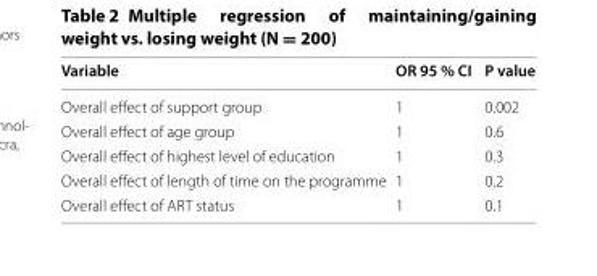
<table><thead><tr><td>Variable</td><td>OR 95 % CI</td><td>P value</td></tr></thead><tbody><tr><td>Overall effect of support group</td><td>1</td><td>0.002</td></tr><tr><td>Overall effect of age group</td><td>1</td><td>0.6</td></tr><tr><td>Overall effect of highest level of education</td><td>1</td><td>0.3</td></tr><tr><td>Overall effect of length of time on the programme</td><td>1</td><td>0.2</td></tr><tr><td>Overall effect of ART status</td><td>1</td><td>0.1</td></tr></tbody></table>